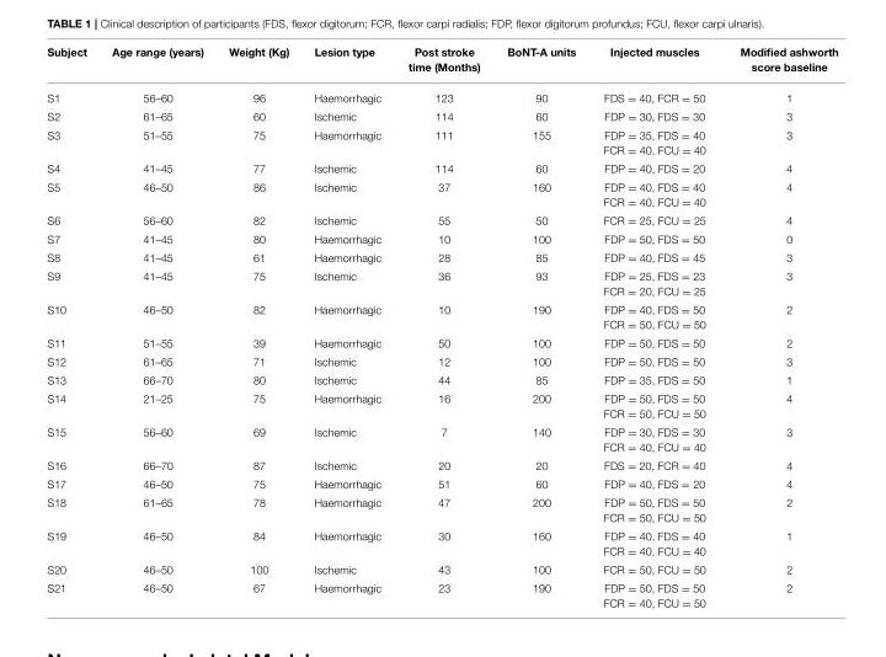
<table><thead><tr><td>Subject</td><td>Age range (years)</td><td>Weight (Kg)</td><td>Lesion type</td><td>Post stroke time (Months)</td><td>BoNT-A units</td><td>Injected muscles</td><td>Modified ashworth score baseline</td></tr></thead><tbody><tr><td>S1</td><td>56–60</td><td>96</td><td>Haemorrhagic</td><td>123</td><td>90</td><td>FDS = 40, FCR = 50</td><td>1</td></tr><tr><td>S2</td><td>61–65</td><td>60</td><td>Ischemic</td><td>114</td><td>60</td><td>FDP = 30, FDS = 30</td><td>3</td></tr><tr><td>S3</td><td>51–55</td><td>75</td><td>Haemorrhagic</td><td>111</td><td>155</td><td>FDP = 35, FDS = 40 FCR = 40, FCU = 40</td><td>3</td></tr><tr><td>S4</td><td>41–45</td><td>77</td><td>Ischemic</td><td>114</td><td>60</td><td>FDP = 40, FDS = 20</td><td>4</td></tr><tr><td>S5</td><td>46–50</td><td>86</td><td>Ischemic</td><td>37</td><td>160</td><td>FDP = 40, FDS = 40 FCR = 40, FCU = 40</td><td>4</td></tr><tr><td>S6</td><td>56–60</td><td>82</td><td>Ischemic</td><td>55</td><td>50</td><td>FCR = 25, FCU = 25</td><td>4</td></tr><tr><td>S7</td><td>41–45</td><td>80</td><td>Haemorrhagic</td><td>10</td><td>100</td><td>FDP = 50, FDS = 50</td><td>0</td></tr><tr><td>S8</td><td>41–45</td><td>61</td><td>Haemorrhagic</td><td>28</td><td>85</td><td>FDP = 40, FDS = 45</td><td>3</td></tr><tr><td>S9</td><td>41–45</td><td>75</td><td>Ischemic</td><td>36</td><td>93</td><td>FDP = 25, FDS = 23 FCR = 20, FCU = 25</td><td>3</td></tr><tr><td>S10</td><td>46–50</td><td>82</td><td>Haemorrhagic</td><td>10</td><td>190</td><td>FDP = 40, FDS = 50 FCR = 50, FCU = 50</td><td>2</td></tr><tr><td>S11</td><td>51–55</td><td>39</td><td>Haemorrhagic</td><td>50</td><td>100</td><td>FDP = 50, FDS = 50</td><td>2</td></tr><tr><td>S12</td><td>61–65</td><td>71</td><td>Ischemic</td><td>12</td><td>100</td><td>FDP = 50, FDS = 50</td><td>3</td></tr><tr><td>S13</td><td>66–70</td><td>80</td><td>Ischemic</td><td>44</td><td>85</td><td>FDP = 35, FDS = 50</td><td>1</td></tr><tr><td>S14</td><td>21–25</td><td>75</td><td>Haemorrhagic</td><td>16</td><td>200</td><td>FDP = 50, FDS = 50 FCR = 50, FCU = 50</td><td>4</td></tr><tr><td>S15</td><td>56–60</td><td>69</td><td>Ischemic</td><td>7</td><td>140</td><td>FDP = 30, FDS = 30 FCR = 40, FCU = 40</td><td>3</td></tr><tr><td>S16</td><td>66–70</td><td>87</td><td>Ischemic</td><td>20</td><td>20</td><td>FDS = 20, FCR = 40</td><td>4</td></tr><tr><td>S17</td><td>46–50</td><td>75</td><td>Haemorrhagic</td><td>51</td><td>60</td><td>FDP = 40, FDS = 20</td><td>4</td></tr><tr><td>S18</td><td>61–65</td><td>78</td><td>Haemorrhagic</td><td>47</td><td>200</td><td>FDP = 50, FDS = 50 FCR = 50, FCU = 50</td><td>2</td></tr><tr><td>S19</td><td>46–50</td><td>84</td><td>Haemorrhagic</td><td>30</td><td>160</td><td>FDP = 40, FDS = 40 FCR = 40, FCU = 40</td><td>1</td></tr><tr><td>S20</td><td>46–50</td><td>100</td><td>Ischemic</td><td>43</td><td>100</td><td>FCR = 50, FCU = 50</td><td>2</td></tr><tr><td>S21</td><td>46–50</td><td>67</td><td>Haemorrhagic</td><td>23</td><td>190</td><td>FDP = 50, FDS = 50 FCR = 40, FCU = 50</td><td>2</td></tr></tbody></table>